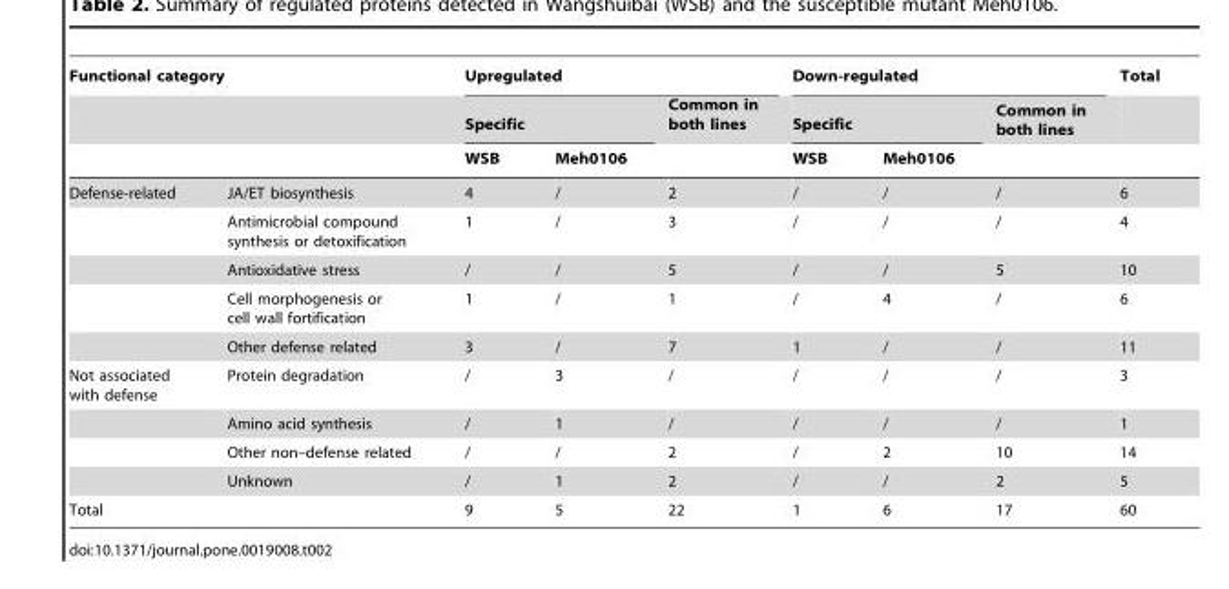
<table><thead><tr><td colspan="2">Functional category</td><td colspan="3">Upregulated</td><td colspan="3">Down-regulated</td><td rowspan="3">Total</td></tr><tr><td rowspan="2"></td><td rowspan="2"></td><td colspan="2">Specific</td><td rowspan="2">Common in both lines</td><td colspan="2">Specific</td><td rowspan="2">Common in both lines</td></tr><tr><td>WSB</td><td>Meh0106</td><td>WSB</td><td>Meh0106</td></tr></thead><tbody><tr><td rowspan="5">Defense-related</td><td>JA/ET biosynthesis</td><td>4</td><td>/</td><td>2</td><td>/</td><td>/</td><td>/</td><td>6</td></tr><tr><td>Antimicrobial compound synthesis or detoxification</td><td>1</td><td>/</td><td>3</td><td>/</td><td>/</td><td>/</td><td>4</td></tr><tr><td>Antioxidative stress</td><td>/</td><td>/</td><td>5</td><td>/</td><td>/</td><td>5</td><td>10</td></tr><tr><td>Cell morphogenesis or cell wall fortification</td><td>1</td><td>/</td><td>1</td><td>/</td><td>4</td><td>/</td><td>6</td></tr><tr><td>Other defense related</td><td>3</td><td>/</td><td>7</td><td>1</td><td>/</td><td>/</td><td>11</td></tr><tr><td rowspan="4">Not associated with defense</td><td>Protein degradation</td><td>/</td><td>3</td><td>/</td><td>/</td><td>/</td><td>/</td><td>3</td></tr><tr><td>Amino acid synthesis</td><td>/</td><td>1</td><td>/</td><td>/</td><td>/</td><td>/</td><td>1</td></tr><tr><td>Other non–defense related</td><td>/</td><td>/</td><td>2</td><td>/</td><td>2</td><td>10</td><td>14</td></tr><tr><td>Unknown</td><td>/</td><td>1</td><td>2</td><td>/</td><td>/</td><td>2</td><td>5</td></tr><tr><td colspan="2">Total</td><td>9</td><td>5</td><td>22</td><td>1</td><td>6</td><td>17</td><td>60</td></tr></tbody></table>